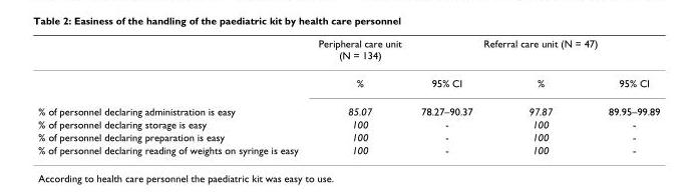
<table><thead><tr><td></td><td>Peripheral care unit (N = 134)</td><td></td><td>Referral care unit (N = 47)</td><td></td></tr></thead><tbody><tr><td></td><td>%</td><td>95% CI</td><td>%</td><td>95% CI</td></tr><tr><td>% of personnel declaring administration is easy</td><td>85.07</td><td>78.27–90.37</td><td>97.87</td><td>89.95–99.89</td></tr><tr><td>% of personnel declaring storage is easy</td><td>100</td><td>-</td><td>100</td><td>-</td></tr><tr><td>% of personnel declaring preparation is easy</td><td>100</td><td>-</td><td>100</td><td>-</td></tr><tr><td>% of personnel declaring reading of weights on syringe is easy</td><td>100</td><td>-</td><td>100</td><td>-</td></tr></tbody></table>